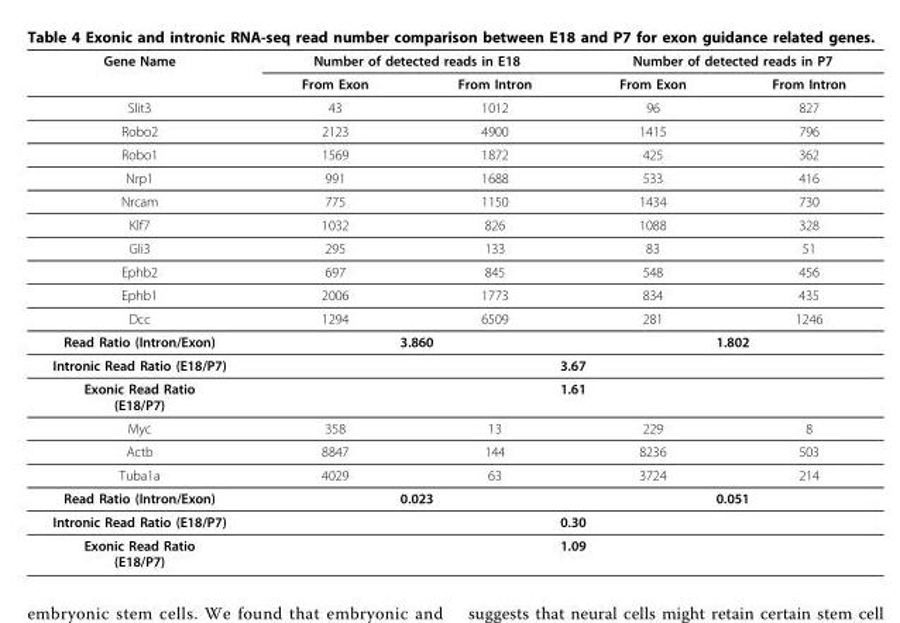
<table><thead><tr><td rowspan="2">Gene Name</td><td colspan="2">Number of detected reads in E18</td><td colspan="2">Number of detected reads in P7</td></tr><tr><td>From Exon</td><td>From Intron</td><td>From Exon</td><td>From Intron</td></tr></thead><tbody><tr><td>Slit3</td><td>43</td><td>1012</td><td>96</td><td>827</td></tr><tr><td>Robo2</td><td>2123</td><td>4900</td><td>1415</td><td>796</td></tr><tr><td>Robo1</td><td>1569</td><td>1872</td><td>425</td><td>362</td></tr><tr><td>Nrp1</td><td>991</td><td>1688</td><td>533</td><td>416</td></tr><tr><td>Nrcam</td><td>775</td><td>1150</td><td>1434</td><td>730</td></tr><tr><td>Klf7</td><td>1032</td><td>826</td><td>1088</td><td>328</td></tr><tr><td>Gli3</td><td>295</td><td>133</td><td>83</td><td>51</td></tr><tr><td>Ephb2</td><td>697</td><td>845</td><td>548</td><td>456</td></tr><tr><td>Ephb1</td><td>2006</td><td>1773</td><td>834</td><td>435</td></tr><tr><td>Dcc</td><td>1294</td><td>6509</td><td>281</td><td>1246</td></tr><tr><td>Read Ratio (Intron/Exon)</td><td colspan="2">3.860</td><td colspan="2">1.802</td></tr><tr><td>Intronic Read Ratio (E18/P7)</td><td colspan="4">3.67</td></tr><tr><td>Exonic Read Ratio (E18/P7)</td><td colspan="4">1.61</td></tr><tr><td>Myc</td><td>358</td><td>13</td><td>229</td><td>8</td></tr><tr><td>Actb</td><td>8847</td><td>144</td><td>8236</td><td>503</td></tr><tr><td>Tuba1a</td><td>4029</td><td>63</td><td>3724</td><td>214</td></tr><tr><td>Read Ratio (Intron/Exon)</td><td colspan="2">0.023</td><td colspan="2">0.051</td></tr><tr><td>Intronic Read Ratio (E18/P7)</td><td colspan="4">0.30</td></tr><tr><td>Exonic Read Ratio (E18/P7)</td><td colspan="4">1.09</td></tr></tbody></table>